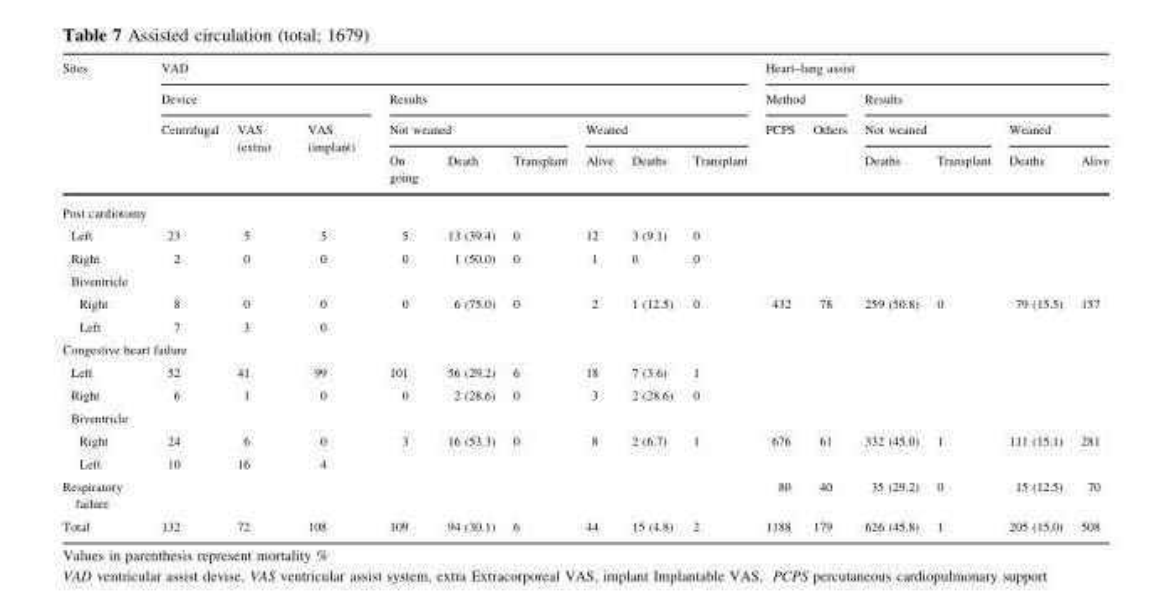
<table><thead><tr><td rowspan="4">Sites</td><td colspan="9">VAD</td><td colspan="6">Heart–lung assist</td></tr><tr><td colspan="3">Device</td><td colspan="6">Results</td><td colspan="2">Method</td><td colspan="4">Results</td></tr><tr><td rowspan="2">Centrifugal</td><td rowspan="2">VAS (extra)</td><td rowspan="2">VAS (implant)</td><td colspan="3">Not weaned</td><td colspan="3">Weaned</td><td rowspan="2">PCPS</td><td rowspan="2">Others</td><td colspan="2">Not weaned</td><td colspan="2">Weaned</td></tr><tr><td>On going</td><td>Death</td><td>Transplant</td><td>Alive</td><td>Deaths</td><td>Transplant</td><td>Deaths</td><td>Transplant</td><td>Deaths</td><td>Alive</td></tr></thead><tbody><tr><td colspan="16">Post cardiotomy</td></tr><tr><td>Left</td><td>23</td><td>5</td><td>5</td><td>5</td><td>13 (39.4)</td><td>0</td><td>12</td><td>3 (9.1)</td><td>0</td><td></td><td></td><td></td><td></td><td></td><td></td></tr><tr><td>Right</td><td>2</td><td>0</td><td>0</td><td>0</td><td>1 (50.0)</td><td>0</td><td>1</td><td>0</td><td>0</td><td></td><td></td><td></td><td></td><td></td><td></td></tr><tr><td colspan="16">Biventricle</td></tr><tr><td>Right</td><td>8</td><td>0</td><td>0</td><td rowspan="2">0</td><td rowspan="2">6 (75.0)</td><td rowspan="2">0</td><td rowspan="2">2</td><td rowspan="2">1 (12.5)</td><td rowspan="2">0</td><td rowspan="2">432</td><td rowspan="2">78</td><td rowspan="2">259 (50.8)</td><td rowspan="2">0</td><td rowspan="2">79 (15.5)</td><td rowspan="2">157</td></tr><tr><td>Left</td><td>7</td><td>3</td><td>0</td></tr><tr><td colspan="16">Congestive heart failure</td></tr><tr><td>Left</td><td>52</td><td>41</td><td>99</td><td>101</td><td>56 (29.2)</td><td>6</td><td>18</td><td>7 (3.6)</td><td>1</td><td></td><td></td><td></td><td></td><td></td><td></td></tr><tr><td>Right</td><td>6</td><td>1</td><td>0</td><td>0</td><td>2 (28.6)</td><td>0</td><td>3</td><td>2 (28.6)</td><td>0</td><td></td><td></td><td></td><td></td><td></td><td></td></tr><tr><td colspan="16">Biventricle</td></tr><tr><td>Right</td><td>24</td><td>6</td><td>0</td><td rowspan="2">3</td><td rowspan="2">16 (53.3)</td><td rowspan="2">0</td><td rowspan="2">8</td><td rowspan="2">2 (6.7)</td><td rowspan="2">1</td><td rowspan="2">676</td><td rowspan="2">61</td><td rowspan="2">332 (45.0)</td><td rowspan="2">1</td><td rowspan="2">111 (15.1)</td><td rowspan="2">281</td></tr><tr><td>Left</td><td>10</td><td>16</td><td>4</td></tr><tr><td>Respiratory failure</td><td></td><td></td><td></td><td></td><td></td><td></td><td></td><td></td><td></td><td>80</td><td>40</td><td>35 (29.2)</td><td>0</td><td>15 (12.5)</td><td>70</td></tr><tr><td>Total</td><td>132</td><td>72</td><td>108</td><td>109</td><td>94 (30.1)</td><td>6</td><td>44</td><td>15 (4.8)</td><td>2</td><td>1188</td><td>179</td><td>626 (45.8)</td><td>1</td><td>205 (15.0)</td><td>508</td></tr></tbody></table>